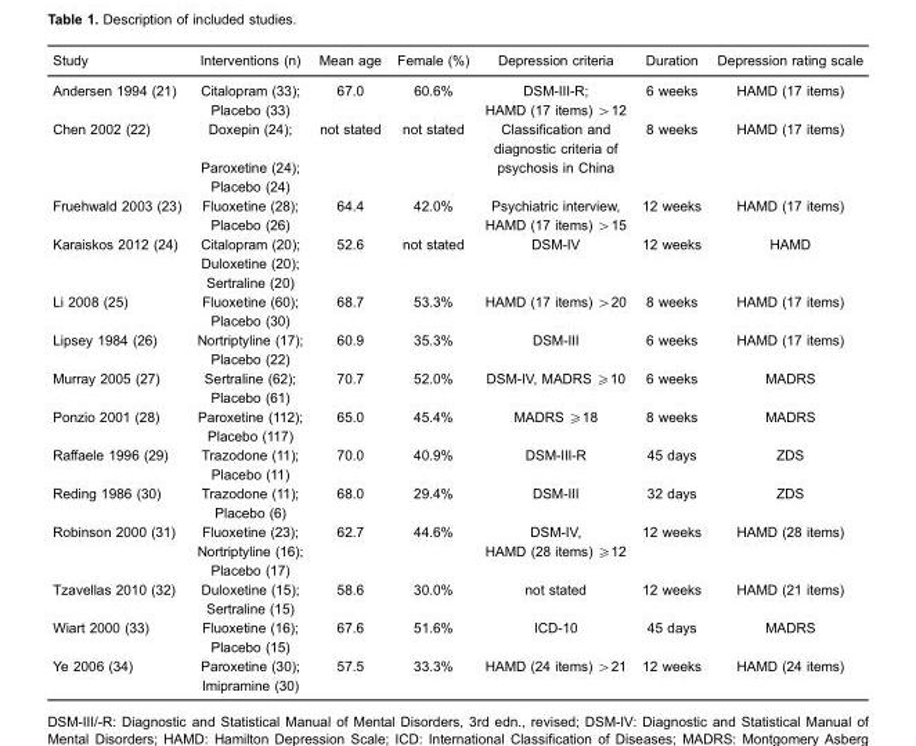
<table><thead><tr><td>Study</td><td>Interventions (n)</td><td>Mean age</td><td>Female (%)</td><td>Depression criteria</td><td>Duration</td><td>Depression rating scale</td></tr></thead><tbody><tr><td>Andersen 1994 (21)</td><td>Citalopram (33); Placebo (33)</td><td>67.0</td><td>60.6%</td><td>DSM-III-R; HAMD (17 items) &gt;12</td><td>6 weeks</td><td>HAMD (17 items)</td></tr><tr><td>Chen 2002 (22)</td><td>Doxepin (24); Paroxetine (24); Placebo (24)</td><td>not stated</td><td>not stated</td><td>Classification and diagnostic criteria of psychosis in China</td><td>8 weeks</td><td>HAMD (17 items)</td></tr><tr><td>Fruehwald 2003 (23)</td><td>Fluoxetine (28); Placebo (26)</td><td>64.4</td><td>42.0%</td><td>Psychiatric interview, HAMD (17 items) &gt;15</td><td>12 weeks</td><td>HAMD (17 items)</td></tr><tr><td>Karaiskos 2012 (24)</td><td>Citalopram (20); Duloxetine (20); Sertraline (20)</td><td>52.6</td><td>not stated</td><td>DSM-IV</td><td>12 weeks</td><td>HAMD</td></tr><tr><td>Li 2008 (25)</td><td>Fluoxetine (60); Placebo (30)</td><td>68.7</td><td>53.3%</td><td>HAMD (17 items) &gt;20</td><td>8 weeks</td><td>HAMD (17 items)</td></tr><tr><td>Lipsey 1984 (26)</td><td>Nortriptyline (17); Placebo (22)</td><td>60.9</td><td>35.3%</td><td>DSM-III</td><td>6 weeks</td><td>HAMD (17 items)</td></tr><tr><td>Murray 2005 (27)</td><td>Sertraline (62); Placebo (61)</td><td>70.7</td><td>52.0%</td><td>DSM-IV, MADRS ≥10</td><td>6 weeks</td><td>MADRS</td></tr><tr><td>Ponzio 2001 (28)</td><td>Paroxetine (112); Placebo (117)</td><td>65.0</td><td>45.4%</td><td>MADRS ≥18</td><td>8 weeks</td><td>MADRS</td></tr><tr><td>Raffaele 1996 (29)</td><td>Trazodone (11); Placebo (11)</td><td>70.0</td><td>40.9%</td><td>DSM-III-R</td><td>45 days</td><td>ZDS</td></tr><tr><td>Reding 1986 (30)</td><td>Trazodone (11); Placebo (6)</td><td>68.0</td><td>29.4%</td><td>DSM-III</td><td>32 days</td><td>ZDS</td></tr><tr><td>Robinson 2000 (31)</td><td>Fluoxetine (23); Nortriptyline (16); Placebo (17)</td><td>62.7</td><td>44.6%</td><td>DSM-IV, HAMD (28 items) ≥12</td><td>12 weeks</td><td>HAMD (28 items)</td></tr><tr><td>Tzavellas 2010 (32)</td><td>Duloxetine (15); Sertraline (15)</td><td>58.6</td><td>30.0%</td><td>not stated</td><td>12 weeks</td><td>HAMD (21 items)</td></tr><tr><td>Wiart 2000 (33)</td><td>Fluoxetine (16); Placebo (15)</td><td>67.6</td><td>51.6%</td><td>ICD-10</td><td>45 days</td><td>MADRS</td></tr><tr><td>Ye 2006 (34)</td><td>Paroxetine (30); Imipramine (30)</td><td>57.5</td><td>33.3%</td><td>HAMD (24 items) &gt;21</td><td>12 weeks</td><td>HAMD (24 items)</td></tr></tbody></table>